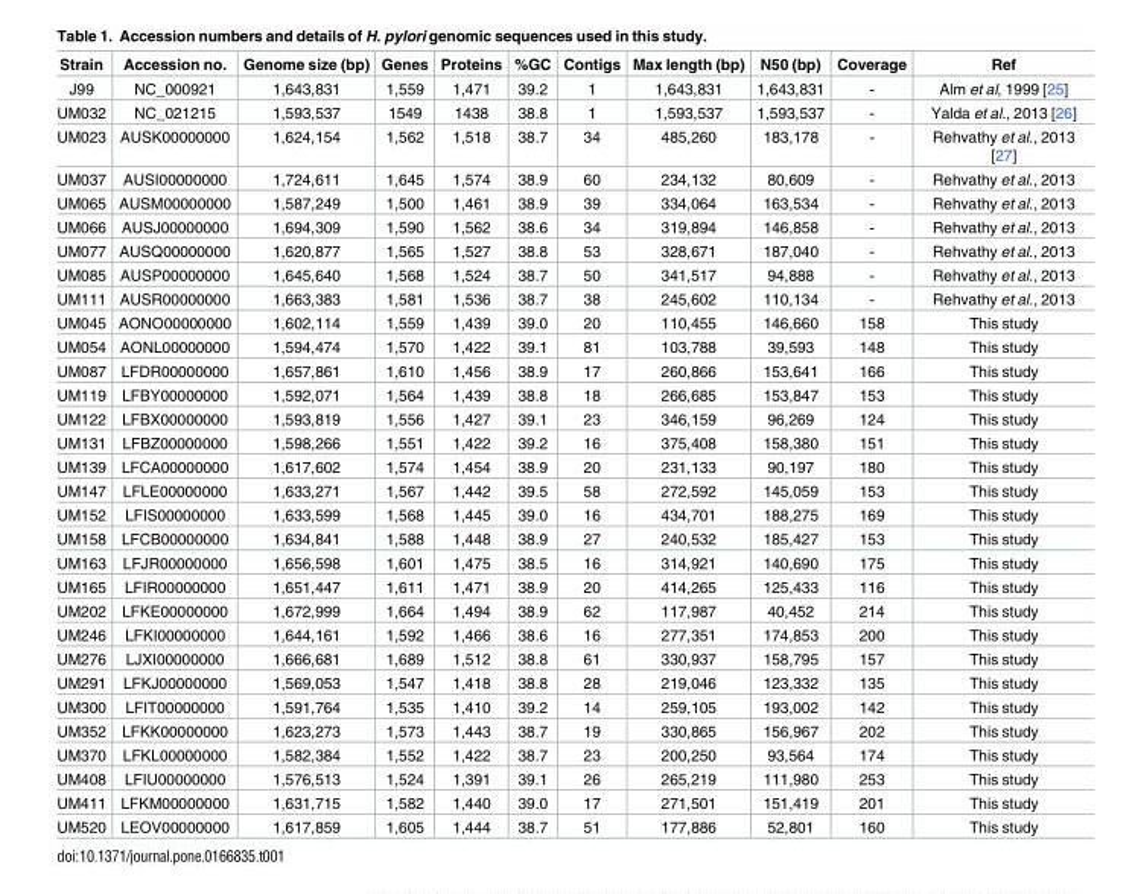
<table><thead><tr><td>Strain</td><td>Accession no.</td><td>Genome size (bp)</td><td>Genes</td><td>Proteins</td><td>%GC</td><td>Contigs</td><td>Max length (bp)</td><td>N50 (bp)</td><td>Coverage</td><td>Ref</td></tr></thead><tbody><tr><td>J99</td><td>NC_000921</td><td>1,643,831</td><td>1,559</td><td>1,471</td><td>39.2</td><td>1</td><td>1,643,831</td><td>1,643,831</td><td>-</td><td>Alm et al, 1999 [25]</td></tr><tr><td>UM032</td><td>NC_021215</td><td>1,593,537</td><td>1549</td><td>1438</td><td>38.8</td><td>1</td><td>1,593,537</td><td>1,593,537</td><td>-</td><td>Yalda et al., 2013 [26]</td></tr><tr><td>UM023</td><td>AUSK00000000</td><td>1,624,154</td><td>1,562</td><td>1,518</td><td>38.7</td><td>34</td><td>485,260</td><td>183,178</td><td>-</td><td>Rehvathy et al., 2013 [27]</td></tr><tr><td>UM037</td><td>AUSI00000000</td><td>1,724,611</td><td>1,645</td><td>1,574</td><td>38.9</td><td>60</td><td>234,132</td><td>80,609</td><td>-</td><td>Rehvathy et al., 2013</td></tr><tr><td>UM065</td><td>AUSM00000000</td><td>1,587,249</td><td>1,500</td><td>1,461</td><td>38.9</td><td>39</td><td>334,064</td><td>163,534</td><td>-</td><td>Rehvathy et al., 2013</td></tr><tr><td>UM066</td><td>AUSJ00000000</td><td>1,694,309</td><td>1,590</td><td>1,562</td><td>38.6</td><td>34</td><td>319,894</td><td>146,858</td><td>-</td><td>Rehvathy et al., 2013</td></tr><tr><td>UM077</td><td>AUSQ00000000</td><td>1,620,877</td><td>1,565</td><td>1,527</td><td>38.8</td><td>53</td><td>328,671</td><td>187,040</td><td>-</td><td>Rehvathy et al., 2013</td></tr><tr><td>UM085</td><td>AUSP00000000</td><td>1,645,640</td><td>1,568</td><td>1,524</td><td>38.7</td><td>50</td><td>341,517</td><td>94,888</td><td>-</td><td>Rehvathy et al., 2013</td></tr><tr><td>UM111</td><td>AUSR00000000</td><td>1,663,383</td><td>1,581</td><td>1,536</td><td>38.7</td><td>38</td><td>245,602</td><td>110,134</td><td>-</td><td>Rehvathy et al., 2013</td></tr><tr><td>UM045</td><td>AONO00000000</td><td>1,602,114</td><td>1,559</td><td>1,439</td><td>39.0</td><td>20</td><td>110,455</td><td>146,660</td><td>158</td><td>This study</td></tr><tr><td>UM054</td><td>AONL00000000</td><td>1,594,474</td><td>1,570</td><td>1,422</td><td>39.1</td><td>81</td><td>103,788</td><td>39,593</td><td>148</td><td>This study</td></tr><tr><td>UM087</td><td>LFDR00000000</td><td>1,657,861</td><td>1,610</td><td>1,456</td><td>38.9</td><td>17</td><td>260,866</td><td>153,641</td><td>166</td><td>This study</td></tr><tr><td>UM119</td><td>LFBY00000000</td><td>1,592,071</td><td>1,564</td><td>1,439</td><td>38.8</td><td>18</td><td>266,685</td><td>153,847</td><td>153</td><td>This study</td></tr><tr><td>UM122</td><td>LFBX00000000</td><td>1,593,819</td><td>1,556</td><td>1,427</td><td>39.1</td><td>23</td><td>346,159</td><td>96,269</td><td>124</td><td>This study</td></tr><tr><td>UM131</td><td>LFBZ00000000</td><td>1,598,266</td><td>1,551</td><td>1,422</td><td>39.2</td><td>16</td><td>375,408</td><td>158,380</td><td>151</td><td>This study</td></tr><tr><td>UM139</td><td>LFCA00000000</td><td>1,617,602</td><td>1,574</td><td>1,454</td><td>38.9</td><td>20</td><td>231,133</td><td>90,197</td><td>180</td><td>This study</td></tr><tr><td>UM147</td><td>LFLE00000000</td><td>1,633,271</td><td>1,567</td><td>1,442</td><td>39.5</td><td>58</td><td>272,592</td><td>145,059</td><td>153</td><td>This study</td></tr><tr><td>UM152</td><td>LFIS00000000</td><td>1,633,599</td><td>1,568</td><td>1,445</td><td>39.0</td><td>16</td><td>434,701</td><td>188,275</td><td>169</td><td>This study</td></tr><tr><td>UM158</td><td>LFCB00000000</td><td>1,634,841</td><td>1,588</td><td>1,448</td><td>38.9</td><td>27</td><td>240,532</td><td>185,427</td><td>153</td><td>This study</td></tr><tr><td>UM163</td><td>LFJR00000000</td><td>1,656,598</td><td>1,601</td><td>1,475</td><td>38.5</td><td>16</td><td>314,921</td><td>140,690</td><td>175</td><td>This study</td></tr><tr><td>UM165</td><td>LFIR00000000</td><td>1,651,447</td><td>1,611</td><td>1,471</td><td>38.9</td><td>20</td><td>414,265</td><td>125,433</td><td>116</td><td>This study</td></tr><tr><td>UM202</td><td>LFKE00000000</td><td>1,672,999</td><td>1,664</td><td>1,494</td><td>38.9</td><td>62</td><td>117,987</td><td>40,452</td><td>214</td><td>This study</td></tr><tr><td>UM246</td><td>LFKI00000000</td><td>1,644,161</td><td>1,592</td><td>1,466</td><td>38.6</td><td>16</td><td>277,351</td><td>174,853</td><td>200</td><td>This study</td></tr><tr><td>UM276</td><td>LJXI00000000</td><td>1,666,681</td><td>1,689</td><td>1,512</td><td>38.8</td><td>61</td><td>330,937</td><td>158,795</td><td>157</td><td>This study</td></tr><tr><td>UM291</td><td>LFKJ00000000</td><td>1,569,053</td><td>1,547</td><td>1,418</td><td>38.8</td><td>28</td><td>219,046</td><td>123,332</td><td>135</td><td>This study</td></tr><tr><td>UM300</td><td>LFIT00000000</td><td>1,591,764</td><td>1,535</td><td>1,410</td><td>39.2</td><td>14</td><td>259,105</td><td>193,002</td><td>142</td><td>This study</td></tr><tr><td>UM352</td><td>LFKK00000000</td><td>1,623,273</td><td>1,573</td><td>1,443</td><td>38.7</td><td>19</td><td>330,865</td><td>156,967</td><td>202</td><td>This study</td></tr><tr><td>UM370</td><td>LFKL00000000</td><td>1,582,384</td><td>1,552</td><td>1,422</td><td>38.7</td><td>23</td><td>200,250</td><td>93,564</td><td>174</td><td>This study</td></tr><tr><td>UM408</td><td>LFIU00000000</td><td>1,576,513</td><td>1,524</td><td>1,391</td><td>39.1</td><td>26</td><td>265,219</td><td>111,980</td><td>253</td><td>This study</td></tr><tr><td>UM411</td><td>LFKM00000000</td><td>1,631,715</td><td>1,582</td><td>1,440</td><td>39.0</td><td>17</td><td>271,501</td><td>151,419</td><td>201</td><td>This study</td></tr><tr><td>UM520</td><td>LEOV00000000</td><td>1,617,859</td><td>1,605</td><td>1,444</td><td>38.7</td><td>51</td><td>177,886</td><td>52,801</td><td>160</td><td>This study</td></tr></tbody></table>